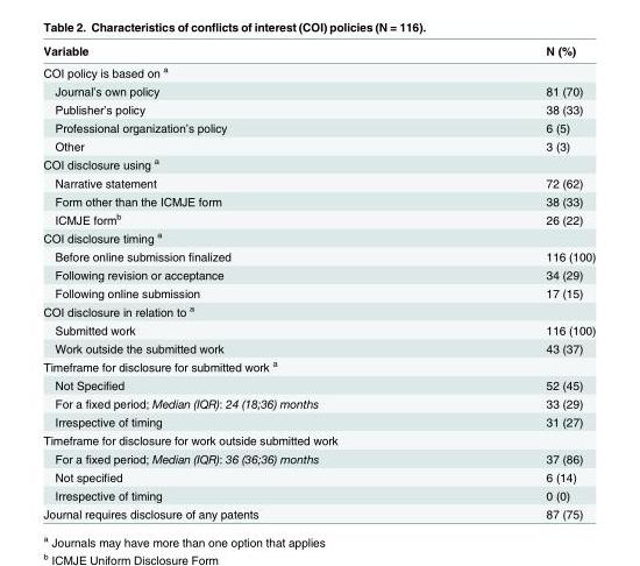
<table><thead><tr><td>Variable</td><td>N (%)</td></tr></thead><tbody><tr><td colspan="2">COI policy is based on <sup>a</sup></td></tr><tr><td>Journal’s own policy</td><td>81 (70)</td></tr><tr><td>Publisher’s policy</td><td>38 (33)</td></tr><tr><td>Professional organization’s policy</td><td>6 (5)</td></tr><tr><td>Other</td><td>3 (3)</td></tr><tr><td colspan="2">COI disclosure using <sup>a</sup></td></tr><tr><td>Narrative statement</td><td>72 (62)</td></tr><tr><td>Form other than the ICMJE form</td><td>38 (33)</td></tr><tr><td>ICMJE form<sup>b</sup></td><td>26 (22)</td></tr><tr><td colspan="2">COI disclosure timing <sup>a</sup></td></tr><tr><td>Before online submission finalized</td><td>116 (100)</td></tr><tr><td>Following revision or acceptance</td><td>34 (29)</td></tr><tr><td>Following online submission</td><td>17 (15)</td></tr><tr><td colspan="2">COI disclosure in relation to <sup>a</sup></td></tr><tr><td>Submitted work</td><td>116 (100)</td></tr><tr><td>Work outside the submitted work</td><td>43 (37)</td></tr><tr><td colspan="2">Timeframe for disclosure for submitted work <sup>a</sup></td></tr><tr><td>Not Specified</td><td>52 (45)</td></tr><tr><td>For a fixed period; Median (IQR): 24 (18;36) months</td><td>33 (29)</td></tr><tr><td>Irrespective of timing</td><td>31 (27)</td></tr><tr><td colspan="2">Timeframe for disclosure for work outside submitted work</td></tr><tr><td>For a fixed period; Median (IQR): 36 (36;36) months</td><td>37 (86)</td></tr><tr><td>Not specified</td><td>6 (14)</td></tr><tr><td>Irrespective of timing</td><td>0 (0)</td></tr><tr><td>Journal requires disclosure of any patents</td><td>87 (75)</td></tr></tbody></table>